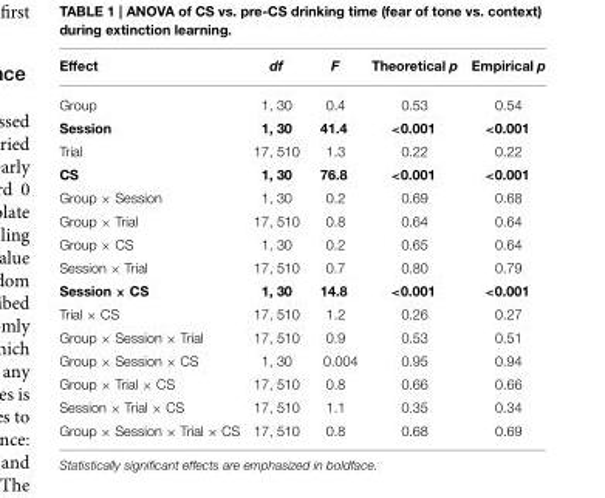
<table><thead><tr><td>Effect</td><td>df</td><td>F</td><td>Theoretical p</td><td>Empirical p</td></tr></thead><tbody><tr><td>Group</td><td>1, 30</td><td>0.4</td><td>0.53</td><td>0.54</td></tr><tr><td>Session</td><td>1, 30</td><td>41.4</td><td>&lt;0.001</td><td>&lt;0.001</td></tr><tr><td>Trial</td><td>17, 510</td><td>1.3</td><td>0.22</td><td>0.22</td></tr><tr><td>CS</td><td>1, 30</td><td>76.8</td><td>&lt;0.001</td><td>&lt;0.001</td></tr><tr><td>Group × Session</td><td>1, 30</td><td>0.2</td><td>0.69</td><td>0.68</td></tr><tr><td>Group × Trial</td><td>17, 510</td><td>0.8</td><td>0.64</td><td>0.64</td></tr><tr><td>Group × CS</td><td>1, 30</td><td>0.2</td><td>0.65</td><td>0.64</td></tr><tr><td>Session × Trial</td><td>17, 510</td><td>0.7</td><td>0.80</td><td>0.79</td></tr><tr><td>Session × CS</td><td>1, 30</td><td>14.8</td><td>&lt;0.001</td><td>&lt;0.001</td></tr><tr><td>Trial × CS</td><td>17, 510</td><td>1.2</td><td>0.26</td><td>0.27</td></tr><tr><td>Group × Session × Trial</td><td>17, 510</td><td>0.9</td><td>0.53</td><td>0.51</td></tr><tr><td>Group × Session × CS</td><td>1, 30</td><td>0.004</td><td>0.95</td><td>0.94</td></tr><tr><td>Group × Trial × CS</td><td>17, 510</td><td>0.8</td><td>0.66</td><td>0.66</td></tr><tr><td>Session × Trial × CS</td><td>17, 510</td><td>1.1</td><td>0.35</td><td>0.34</td></tr><tr><td>Group × Session × Trial × CS</td><td>17, 510</td><td>0.8</td><td>0.68</td><td>0.69</td></tr></tbody></table>